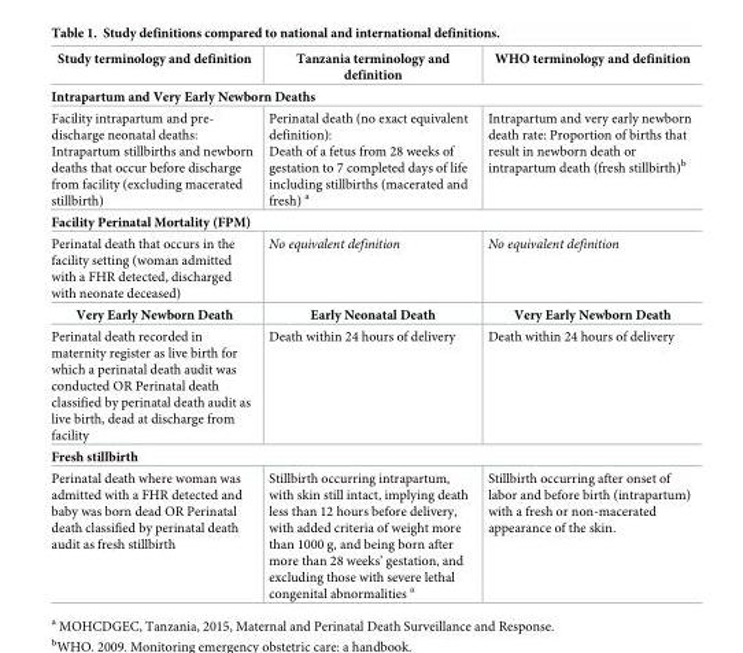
<table><tbody><tr><td>Study terminology and definition</td><td>Tanzania terminology and definition</td><td>WHO terminology and definition</td></tr><tr><td colspan="3">Intrapartum and Very Early Newborn Deaths</td></tr><tr><td>Facility intrapartum and pre- discharge neonatal deaths: Intrapartum stillbirths and newborn deaths that occur before discharge from facility (excluding macerated stillbirth)</td><td>Perinatal death (no exact equivalent definition): Death of a fetus from 28 weeks of gestation to 7 completed days of life including stillbirths (macerated and fresh) <sup>a</sup></td><td>Intrapartum and very early newborn death rate: Proportion of births that result in newborn death or intrapartum death (fresh stillbirth)<sup>b</sup></td></tr><tr><td colspan="3">Facility Perinatal Mortality (FPM)</td></tr><tr><td>Perinatal death that occurs in the facility setting (woman admitted with a FHR detected, discharged with neonate deceased)</td><td>No equivalent definition</td><td>No equivalent definition</td></tr><tr><td>Very Early Newborn Death</td><td>Early Neonatal Death</td><td>Very Early Newborn Death</td></tr><tr><td>Perinatal death recorded in maternity register as live birth for which a perinatal death audit was conducted OR Perinatal death classified by perinatal death audit as live birth, dead at discharge from facility</td><td>Death within 24 hours of delivery</td><td>Death within 24 hours of delivery</td></tr><tr><td colspan="3">Fresh stillbirth</td></tr><tr><td>Perinatal death where woman was admitted with a FHR detected and baby was born dead OR Perinatal death classified by perinatal death audit as fresh stillbirth</td><td>Stillbirth occurring intrapartum, with skin still intact, implying death less than 12 hours before delivery, with added criteria of weight more than 1000 g, and being born after more than 28 weeks’ gestation, and excluding those with severe lethal congenital abnormalities <sup>a</sup></td><td>Stillbirth occurring after onset of labor and before birth (intrapartum) with a fresh or non-macerated appearance of the skin.</td></tr></tbody></table>